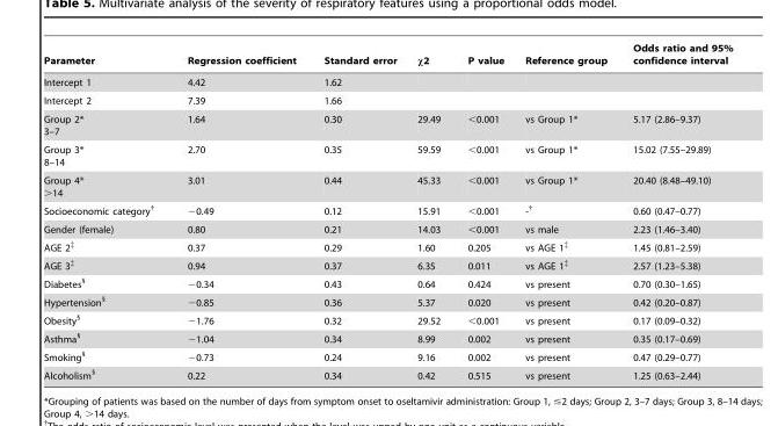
<table><thead><tr><td>Parameter</td><td>Regression coefficient</td><td>Standard error</td><td>χ2</td><td>P value</td><td>Reference group</td><td>Odds ratio and 95% confidence interval</td></tr></thead><tbody><tr><td>Intercept 1</td><td>4.42</td><td>1.62</td><td></td><td></td><td></td><td></td></tr><tr><td>Intercept 2</td><td>7.39</td><td>1.66</td><td></td><td></td><td></td><td></td></tr><tr><td>Group 2* 3–7</td><td>1.64</td><td>0.30</td><td>29.49</td><td>&lt;0.001</td><td>vs Group 1*</td><td>5.17 (2.86–9.37)</td></tr><tr><td>Group 3* 8–14</td><td>2.70</td><td>0.35</td><td>59.59</td><td>&lt;0.001</td><td>vs Group 1*</td><td>15.02 (7.55–29.89)</td></tr><tr><td>Group 4* &gt;14</td><td>3.01</td><td>0.44</td><td>45.33</td><td>&lt;0.001</td><td>vs Group 1*</td><td>20.40 (8.48–49.10)</td></tr><tr><td>Socioeconomic category†</td><td>−0.49</td><td>0.12</td><td>15.91</td><td>&lt;0.001</td><td>-†</td><td>0.60 (0.47–0.77)</td></tr><tr><td>Gender (female)</td><td>0.80</td><td>0.21</td><td>14.03</td><td>&lt;0.001</td><td>vs male</td><td>2.23 (1.46–3.40)</td></tr><tr><td>AGE 2‡</td><td>0.37</td><td>0.29</td><td>1.60</td><td>0.205</td><td>vs AGE 1‡</td><td>1.45 (0.81–2.59)</td></tr><tr><td>AGE 3‡</td><td>0.94</td><td>0.37</td><td>6.35</td><td>0.011</td><td>vs AGE 1‡</td><td>2.57 (1.23–5.38)</td></tr><tr><td>Diabetes§</td><td>−0.34</td><td>0.43</td><td>0.64</td><td>0.424</td><td>vs present</td><td>0.70 (0.30–1.65)</td></tr><tr><td>Hypertension§</td><td>−0.85</td><td>0.36</td><td>5.37</td><td>0.020</td><td>vs present</td><td>0.42 (0.20–0.87)</td></tr><tr><td>Obesity§</td><td>−1.76</td><td>0.32</td><td>29.52</td><td>&lt;0.001</td><td>vs present</td><td>0.17 (0.09–0.32)</td></tr><tr><td>Asthma§</td><td>−1.04</td><td>0.34</td><td>8.99</td><td>0.002</td><td>vs present</td><td>0.35 (0.17–0.69)</td></tr><tr><td>Smoking§</td><td>−0.73</td><td>0.24</td><td>9.16</td><td>0.002</td><td>vs present</td><td>0.47 (0.29–0.77)</td></tr><tr><td>Alcoholism§</td><td>0.22</td><td>0.34</td><td>0.42</td><td>0.515</td><td>vs present</td><td>1.25 (0.63–2.44)</td></tr></tbody></table>